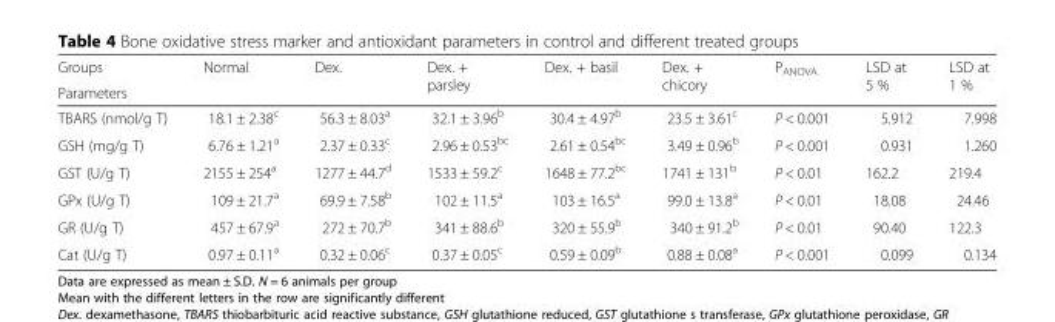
<table><thead><tr><td rowspan="2">Groups Parameters</td><td rowspan="2">Normal</td><td rowspan="2">Dex.</td><td rowspan="2">Dex. + parsley</td><td rowspan="2">Dex. + basil</td><td rowspan="2">Dex. + chicory</td><td rowspan="2">P<sub>ANOVA</sub></td><td rowspan="2">LSD at 5 %</td><td rowspan="2">LSD at 1 %</td></tr><tr></tr></thead><tbody><tr><td>TBARS (nmol/g T)</td><td>18.1 ± 2.38<sup>c</sup></td><td>56.3 ± 8.03<sup>a</sup></td><td>32.1 ± 3.96<sup>b</sup></td><td>30.4 ± 4.97<sup>b</sup></td><td>23.5 ± 3.61<sup>c</sup></td><td>P &lt; 0.001</td><td>5.912</td><td>7.998</td></tr><tr><td>GSH (mg/g T)</td><td>6.76 ± 1.21<sup>a</sup></td><td>2.37 ± 0.33<sup>c</sup></td><td>2.96 ± 0.53<sup>bc</sup></td><td>2.61 ± 0.54<sup>bc</sup></td><td>3.49 ± 0.96<sup>b</sup></td><td>P &lt; 0.001</td><td>0.931</td><td>1.260</td></tr><tr><td>GST (U/g T)</td><td>2155 ± 254<sup>a</sup></td><td>1277 ± 44.7<sup>d</sup></td><td>1533 ± 59.2<sup>c</sup></td><td>1648 ± 77.2<sup>bc</sup></td><td>1741 ± 131<sup>b</sup></td><td>P &lt; 0.01</td><td>162.2</td><td>219.4</td></tr><tr><td>GPx (U/g T)</td><td>109 ± 21.7<sup>a</sup></td><td>69.9 ± 7.58<sup>b</sup></td><td>102 ± 11.5<sup>a</sup></td><td>103 ± 16.5<sup>a</sup></td><td>99.0 ± 13.8<sup>a</sup></td><td>P &lt; 0.01</td><td>18.08</td><td>24.46</td></tr><tr><td>GR (U/g T)</td><td>457 ± 67.9<sup>a</sup></td><td>272 ± 70.7<sup>b</sup></td><td>341 ± 88.6<sup>b</sup></td><td>320 ± 55.9<sup>b</sup></td><td>340 ± 91.2<sup>b</sup></td><td>P &lt; 0.01</td><td>90.40</td><td>122.3</td></tr><tr><td>Cat (U/g T)</td><td>0.97 ± 0.11<sup>a</sup></td><td>0.32 ± 0.06<sup>c</sup></td><td>0.37 ± 0.05<sup>c</sup></td><td>0.59 ± 0.09<sup>b</sup></td><td>0.88 ± 0.08<sup>a</sup></td><td>P &lt; 0.001</td><td>0.099</td><td>0.134</td></tr></tbody></table>